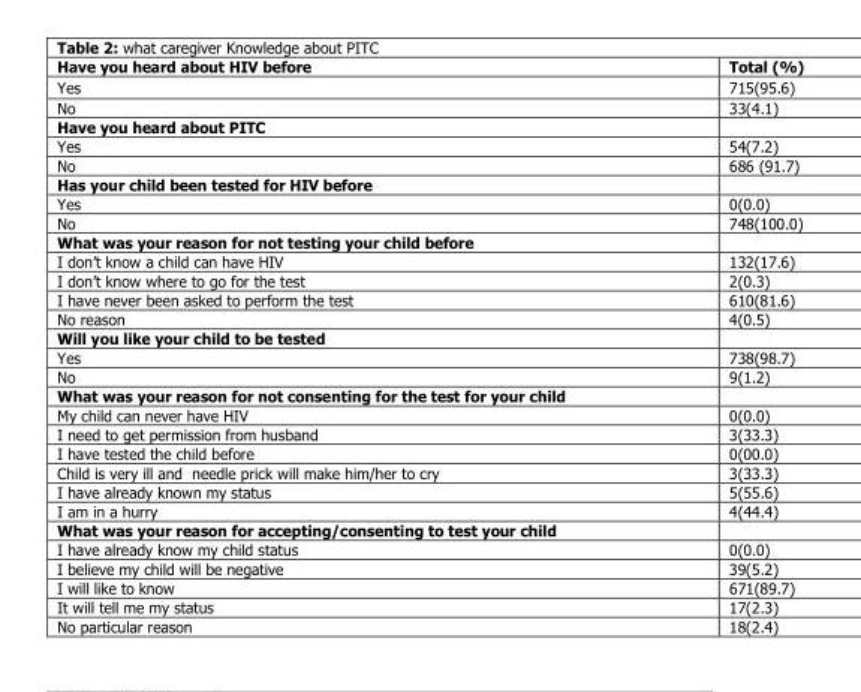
<table><thead><tr><td>Have you heard about HIV before</td><td>Total (%)</td></tr></thead><tbody><tr><td>Yes</td><td>715(95.6)</td></tr><tr><td>No</td><td>33(4.1)</td></tr><tr><td colspan="2">Have you heard about PITC</td></tr><tr><td>Yes</td><td>54(7.2)</td></tr><tr><td>No</td><td>686 (91.7)</td></tr><tr><td colspan="2">Has your child been tested for HIV before</td></tr><tr><td>Yes</td><td>0(0.0)</td></tr><tr><td>No</td><td>748(100.0)</td></tr><tr><td colspan="2">What was your reason for not testing your child before</td></tr><tr><td>I don’t know a child can have HIV</td><td>132(17.6)</td></tr><tr><td>I don’t know where to go for the test</td><td>2(0.3)</td></tr><tr><td>I have never been asked to perform the test</td><td>610(81.6)</td></tr><tr><td>No reason</td><td>4(0.5)</td></tr><tr><td colspan="2">Will you like your child to be tested</td></tr><tr><td>Yes</td><td>738(98.7)</td></tr><tr><td>No</td><td>9(1.2)</td></tr><tr><td colspan="2">What was your reason for not consenting for the test for your child</td></tr><tr><td>My child can never have HIV</td><td>0(0.0)</td></tr><tr><td>I need to get permission from husband</td><td>3(33.3)</td></tr><tr><td>I have tested the child before</td><td>0(00.0)</td></tr><tr><td>Child is very ill and needle prick will make him/her to cry</td><td>3(33.3)</td></tr><tr><td>I have already known my status</td><td>5(55.6)</td></tr><tr><td>I am in a hurry</td><td>4(44.4)</td></tr><tr><td colspan="2">What was your reason for accepting/consenting to test your child</td></tr><tr><td>I have already know my child status</td><td>0(0.0)</td></tr><tr><td>I believe my child will be negative</td><td>39(5.2)</td></tr><tr><td>I will like to know</td><td>671(89.7)</td></tr><tr><td>It will tell me my status</td><td>17(2.3)</td></tr><tr><td>No particular reason</td><td>18(2.4)</td></tr></tbody></table>